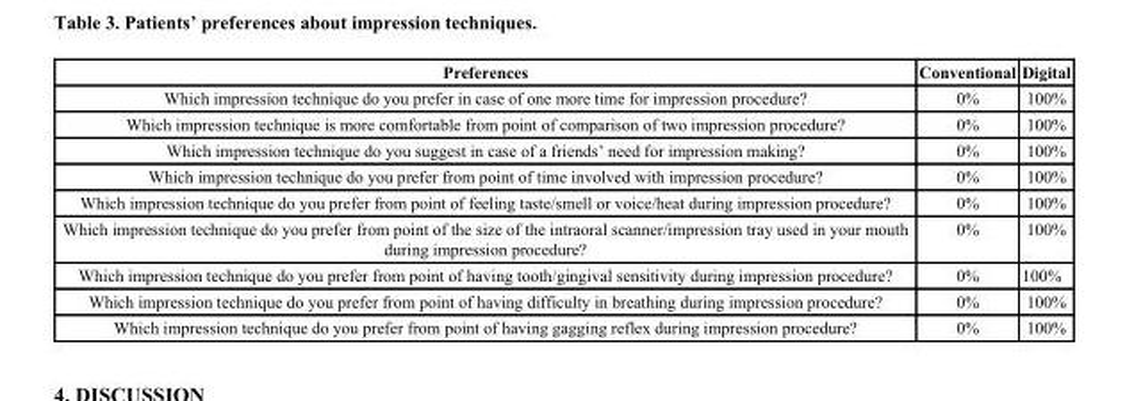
<table><thead><tr><td>Preferences</td><td>Conventional</td><td>Digital</td></tr></thead><tbody><tr><td>Which impression technique do you prefer in case of one more time for impression procedure?</td><td>0%</td><td>100%</td></tr><tr><td>Which impression technique is more comfortable from point of comparison of two impression procedure?</td><td>0%</td><td>100%</td></tr><tr><td>Which impression technique do you suggest in case of a friends’ need for impression making?</td><td>0%</td><td>100%</td></tr><tr><td>Which impression technique do you prefer from point of time involved with impression procedure?</td><td>0%</td><td>100%</td></tr><tr><td>Which impression technique do you prefer from point of feeling taste/smell or voice/heat during impression procedure?</td><td>0%</td><td>100%</td></tr><tr><td>Which impression technique do you prefer from point of the size of the intraoral scanner/impression tray used in your mouth during impression procedure?</td><td>0%</td><td>100%</td></tr><tr><td>Which impression technique do you prefer from point of having tooth/gingival sensitivity during impression procedure?</td><td>0%</td><td>100%</td></tr><tr><td>Which impression technique do you prefer from point of having difficulty in breathing during impression procedure?</td><td>0%</td><td>100%</td></tr><tr><td>Which impression technique do you prefer from point of having gagging reflex during impression procedure?</td><td>0%</td><td>100%</td></tr></tbody></table>